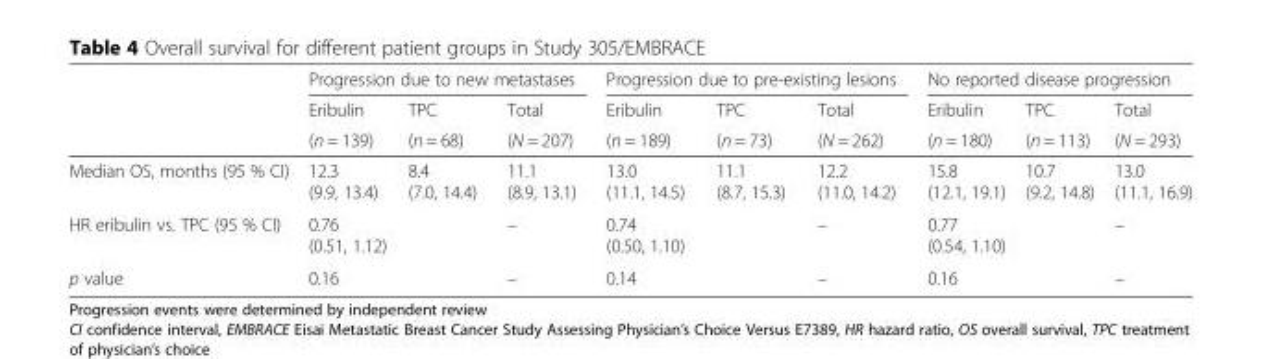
<table><thead><tr><td rowspan="3"></td><td colspan="3">Progression due to new metastases</td><td colspan="3">Progression due to pre-existing lesions</td><td colspan="3">No reported disease progression</td></tr><tr><td rowspan="2">Eribulin (n = 139)</td><td rowspan="2">TPC (n = 68)</td><td rowspan="2">Total (N = 207)</td><td rowspan="2">Eribulin (n = 189)</td><td rowspan="2">TPC (n = 73)</td><td rowspan="2">Total (N = 262)</td><td rowspan="2">Eribulin (n = 180)</td><td rowspan="2">TPC (n = 113)</td><td rowspan="2">Total (N = 293)</td></tr><tr></tr></thead><tbody><tr><td>Median OS, months (95 % CI)</td><td>12.3 (9.9, 13.4)</td><td>8.4 (7.0, 14.4)</td><td>11.1 (8.9, 13.1)</td><td>13.0 (11.1, 14.5)</td><td>11.1 (8.7, 15.3)</td><td>12.2 (11.0, 14.2)</td><td>15.8 (12.1, 19.1)</td><td>10.7 (9.2, 14.8)</td><td>13.0 (11.1, 16.9)</td></tr><tr><td>HR eribulin vs. TPC (95 % CI)</td><td colspan="2">0.76 (0.51, 1.12)</td><td>–</td><td colspan="2">0.74 (0.50, 1.10)</td><td>–</td><td colspan="2">0.77 (0.54, 1.10)</td><td>–</td></tr><tr><td>p value</td><td colspan="2">0.16</td><td>–</td><td colspan="2">0.14</td><td>–</td><td colspan="2">0.16</td><td>–</td></tr></tbody></table>